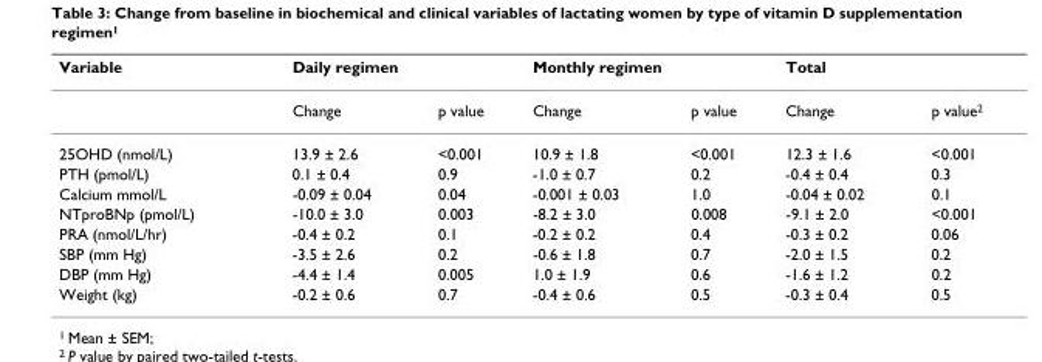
<table><thead><tr><td rowspan="2">Variable</td><td colspan="2">Daily regimen</td><td colspan="2">Monthly regimen</td><td colspan="2">Total</td></tr><tr><td>Change</td><td>p value</td><td>Change</td><td>p value</td><td>Change</td><td>p value<sup>2</sup></td></tr></thead><tbody><tr><td>25OHD (nmol/L)</td><td>13.9 ± 2.6</td><td>&lt;0.001</td><td>10.9 ± 1.8</td><td>&lt;0.001</td><td>12.3 ± 1.6</td><td>&lt;0.001</td></tr><tr><td>PTH (pmol/L)</td><td>0.1 ± 0.4</td><td>0.9</td><td>-1.0 ± 0.7</td><td>0.2</td><td>-0.4 ± 0.4</td><td>0.3</td></tr><tr><td>Calcium mmol/L</td><td>-0.09 ± 0.04</td><td>0.04</td><td>-0.001 ± 0.03</td><td>1.0</td><td>-0.04 ± 0.02</td><td>0.1</td></tr><tr><td>NTproBNp (pmol/L)</td><td>-10.0 ± 3.0</td><td>0.003</td><td>-8.2 ± 3.0</td><td>0.008</td><td>-9.1 ± 2.0</td><td>&lt;0.001</td></tr><tr><td>PRA (nmol/L/hr)</td><td>-0.4 ± 0.2</td><td>0.1</td><td>-0.2 ± 0.2</td><td>0.4</td><td>-0.3 ± 0.2</td><td>0.06</td></tr><tr><td>SBP (mm Hg)</td><td>-3.5 ± 2.6</td><td>0.2</td><td>-0.6 ± 1.8</td><td>0.7</td><td>-2.0 ± 1.5</td><td>0.2</td></tr><tr><td>DBP (mm Hg)</td><td>-4.4 ± 1.4</td><td>0.005</td><td>1.0 ± 1.9</td><td>0.6</td><td>-1.6 ± 1.2</td><td>0.2</td></tr><tr><td>Weight (kg)</td><td>-0.2 ± 0.6</td><td>0.7</td><td>-0.4 ± 0.6</td><td>0.5</td><td>-0.3 ± 0.4</td><td>0.5</td></tr></tbody></table>